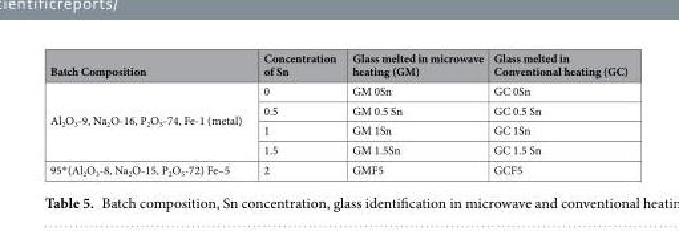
<table><thead><tr><td>Batch Composition</td><td>Concentration of Sn</td><td>Glass melted in microwave heating (GM)</td><td>Glass melted in Conventional heating (GC)</td></tr></thead><tbody><tr><td rowspan="4">Al<sub>2</sub>O<sub>3</sub>-9, Na<sub>2</sub>O-16, P<sub>2</sub>O<sub>5</sub>-74, Fe-1 (metal)</td><td>0</td><td>GM 0Sn</td><td>GC 0Sn</td></tr><tr><td>0.5</td><td>GM 0.5 Sn</td><td>GC 0.5 Sn</td></tr><tr><td>1</td><td>GM 1Sn</td><td>GC 1Sn</td></tr><tr><td>1.5</td><td>GM 1.5Sn</td><td>GC 1.5 Sn</td></tr><tr><td>95*(Al<sub>2</sub>O<sub>3</sub>-8, Na<sub>2</sub>O-15, P<sub>2</sub>O<sub>5</sub>-72) Fe–5</td><td>2</td><td>GMF5</td><td>GCF5</td></tr></tbody></table>